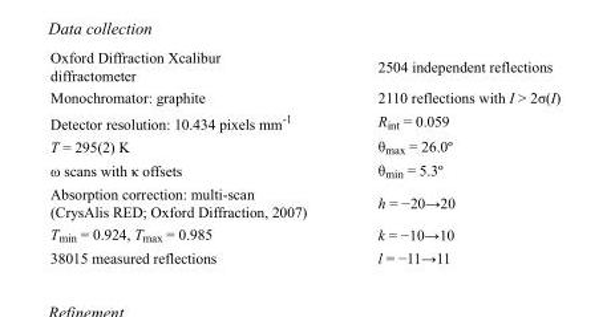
<table><tbody><tr><td>Oxford Diffraction Xcalibur diffractometer</td><td>2504 independent reflections</td></tr><tr><td>Monochromator: graphite</td><td>2110 reflections with I &gt; 2σ(I)</td></tr><tr><td>Detector resolution: 10.434 pixels mm<sup>-1</sup></td><td>R<sub>int</sub> = 0.059</td></tr><tr><td>T = 295(2) K</td><td>θ<sub>max</sub> = 26.0º</td></tr><tr><td>ω scans with κ offsets</td><td>θ<sub>min</sub> = 5.3º</td></tr><tr><td>Absorption correction: multi-scan (CrysAlis RED; Oxford Diffraction, 2007)</td><td>h = −20→20</td></tr><tr><td>T<sub>min</sub> = 0.924, T<sub>max</sub> = 0.985</td><td>k = −10→10</td></tr><tr><td>38015 measured reflections</td><td>l = −11→11</td></tr></tbody></table>